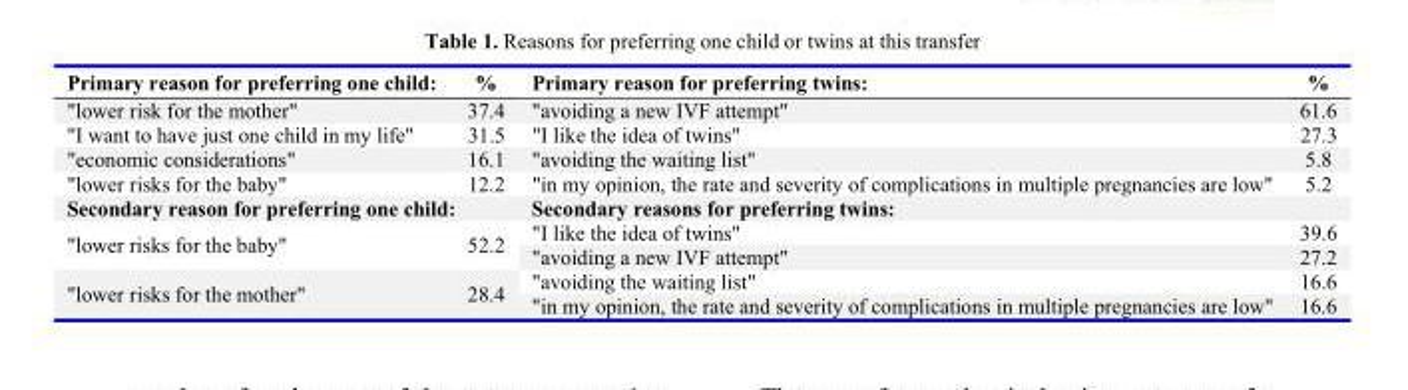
<table><thead><tr><td>Primary reason for preferring one child:</td><td>%</td><td>Primary reason for preferring twins:</td><td>%</td></tr></thead><tbody><tr><td>&quot;lower risk for the mother&quot;</td><td>37.4</td><td>&quot;avoiding a new IVF attempt&quot;</td><td>61.6</td></tr><tr><td>&quot;I want to have just one child in my life&quot;</td><td>31.5</td><td>&quot;I like the idea of twins&quot;</td><td>27.3</td></tr><tr><td>&quot;economic considerations&quot;</td><td>16.1</td><td>&quot;avoiding the waiting list&quot;</td><td>5.8</td></tr><tr><td>&quot;lower risks for the baby&quot;</td><td>12.2</td><td>&quot;in my opinion, the rate and severity of complications in multiple pregnancies are low&quot;</td><td>5.2</td></tr><tr><td colspan="2">Secondary reason for preferring one child:</td><td colspan="2">Secondary reasons for preferring twins:</td></tr><tr><td rowspan="2">&quot;lower risks for the baby&quot;</td><td rowspan="2">52.2</td><td>&quot;I like the idea of twins&quot;</td><td>39.6</td></tr><tr><td>&quot;avoiding a new IVF attempt&quot;</td><td>27.2</td></tr><tr><td rowspan="2">&quot;lower risks for the mother&quot;</td><td rowspan="2">28.4</td><td>&quot;avoiding the waiting list&quot;</td><td>16.6</td></tr><tr><td>&quot;in my opinion, the rate and severity of complications in multiple pregnancies are low&quot;</td><td>16.6</td></tr></tbody></table>